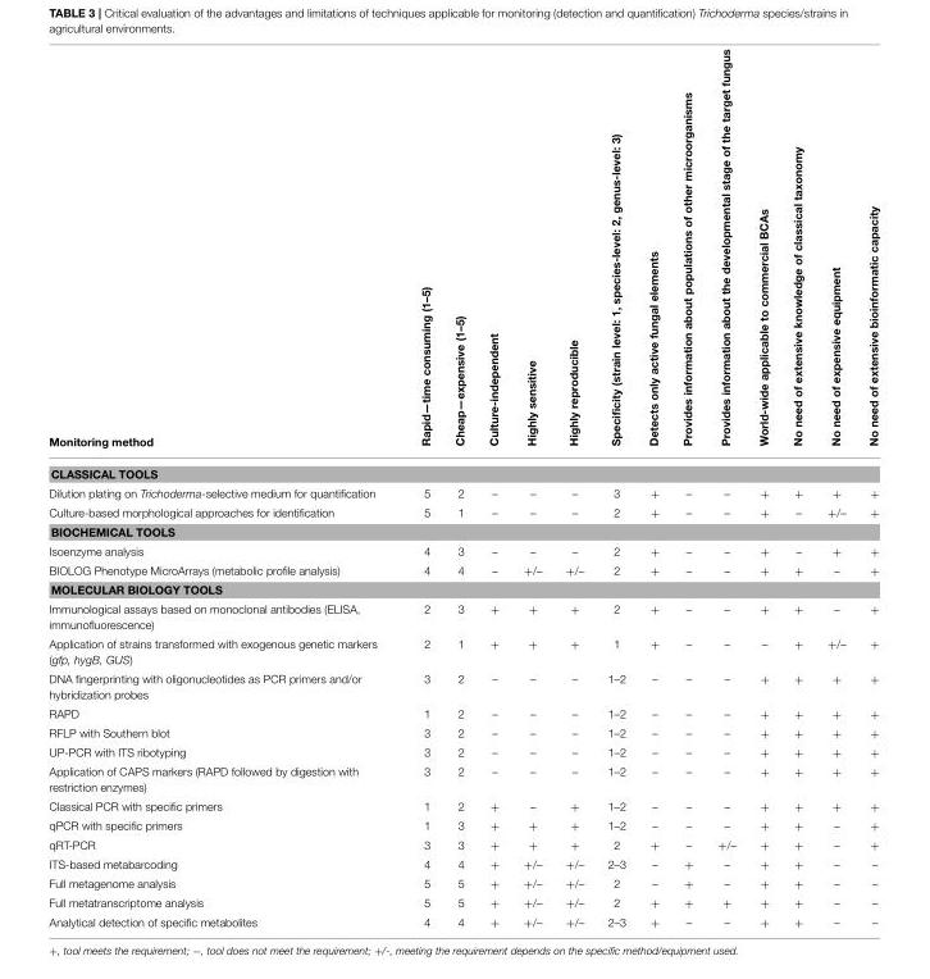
<table><thead><tr><td>Monitoring method</td><td>Rapid—time consuming (1–5)</td><td>Cheap—expensive (1–5)</td><td>Culture-independent</td><td>Highly sensitive</td><td>Highly reproducible</td><td>Specificity (strain level: 1, species-level: 2, genus-level: 3)</td><td>Detects only active fungal elements</td><td>Provides information about populations of other microorganisms</td><td>Provides information about the developmental stage of the target fungus</td><td>World-wide applicable to commercial BCAs</td><td>No need of extensive knowledge of classical taxonomy</td><td>No need of expensive equipment</td><td>No need of extensive bioinformatic capacity</td></tr></thead><tbody><tr><td colspan="14">CLASSICAL TOOLS</td></tr><tr><td>Dilution plating on Trichoderma-selective medium for quantification</td><td>5</td><td>2</td><td>–</td><td>–</td><td>–</td><td>3</td><td>+</td><td>–</td><td>–</td><td>+</td><td>+</td><td>+</td><td>+</td></tr><tr><td>Culture-based morphological approaches for identification</td><td>5</td><td>1</td><td>–</td><td>–</td><td>–</td><td>2</td><td>+</td><td>–</td><td>–</td><td>+</td><td>–</td><td>+/–</td><td>+</td></tr><tr><td colspan="14">BIOCHEMICAL TOOLS</td></tr><tr><td>Isoenzyme analysis</td><td>4</td><td>3</td><td>–</td><td>–</td><td>–</td><td>2</td><td>+</td><td>–</td><td>–</td><td>+</td><td>–</td><td>+</td><td>+</td></tr><tr><td>BIOLOG Phenotype MicroArrays (metabolic profile analysis)</td><td>4</td><td>4</td><td>–</td><td>+/–</td><td>+/–</td><td>2</td><td>+</td><td>–</td><td>–</td><td>+</td><td>+</td><td>–</td><td>+</td></tr><tr><td colspan="14">MOLECULAR BIOLOGY TOOLS</td></tr><tr><td>Immunological assays based on monoclonal antibodies (ELISA, immunofluorescence)</td><td>2</td><td>3</td><td>+</td><td>+</td><td>+</td><td>2</td><td>+</td><td>–</td><td>–</td><td>+</td><td>+</td><td>–</td><td>+</td></tr><tr><td>Application of strains transformed with exogenous genetic markers (gfp, hygB, GUS)</td><td>2</td><td>1</td><td>+</td><td>+</td><td>+</td><td>1</td><td>+</td><td>–</td><td>–</td><td>–</td><td>+</td><td>+/–</td><td>+</td></tr><tr><td>DNA fingerprinting with oligonucleotides as PCR primers and/or hybridization probes</td><td>3</td><td>2</td><td>–</td><td>–</td><td>–</td><td>1–2</td><td>–</td><td>–</td><td>–</td><td>+</td><td>+</td><td>+</td><td>+</td></tr><tr><td>RAPD</td><td>1</td><td>2</td><td>–</td><td>–</td><td>–</td><td>1–2</td><td>–</td><td>–</td><td>–</td><td>+</td><td>+</td><td>+</td><td>+</td></tr><tr><td>RFLP with Southern blot</td><td>3</td><td>2</td><td>–</td><td>–</td><td>–</td><td>1–2</td><td>–</td><td>–</td><td>–</td><td>+</td><td>+</td><td>+</td><td>+</td></tr><tr><td>UP-PCR with ITS ribotyping</td><td>3</td><td>2</td><td>–</td><td>–</td><td>–</td><td>1–2</td><td>–</td><td>–</td><td>–</td><td>+</td><td>+</td><td>+</td><td>+</td></tr><tr><td>Application of CAPS markers (RAPD followed by digestion with restriction enzymes)</td><td>3</td><td>2</td><td>–</td><td>–</td><td>–</td><td>1–2</td><td>–</td><td>–</td><td>–</td><td>+</td><td>+</td><td>+</td><td>+</td></tr><tr><td>Classical PCR with specific primers</td><td>1</td><td>2</td><td>+</td><td>–</td><td>+</td><td>1–2</td><td>–</td><td>–</td><td>–</td><td>+</td><td>+</td><td>+</td><td>+</td></tr><tr><td>qPCR with specific primers</td><td>1</td><td>3</td><td>+</td><td>+</td><td>+</td><td>1–2</td><td>–</td><td>–</td><td>–</td><td>+</td><td>+</td><td>–</td><td>+</td></tr><tr><td>qRT-PCR</td><td>3</td><td>3</td><td>+</td><td>+</td><td>+</td><td>2</td><td>+</td><td>–</td><td>+/–</td><td>+</td><td>+</td><td>–</td><td>+</td></tr><tr><td>ITS-based metabarcoding</td><td>4</td><td>4</td><td>+</td><td>+/–</td><td>+/–</td><td>2–3</td><td>–</td><td>+</td><td>–</td><td>+</td><td>+</td><td>–</td><td>–</td></tr><tr><td>Full metagenome analysis</td><td>5</td><td>5</td><td>+</td><td>+/–</td><td>+/–</td><td>2</td><td>–</td><td>+</td><td>–</td><td>+</td><td>+</td><td>–</td><td>–</td></tr><tr><td>Full metatranscriptome analysis</td><td>5</td><td>5</td><td>+</td><td>+/–</td><td>+/–</td><td>2</td><td>+</td><td>+</td><td>+</td><td>+</td><td>+</td><td>–</td><td>–</td></tr><tr><td>Analytical detection of specific metabolites</td><td>4</td><td>4</td><td>+</td><td>+/–</td><td>+/–</td><td>2–3</td><td>+</td><td>–</td><td>–</td><td>+</td><td>+</td><td>–</td><td>–</td></tr></tbody></table>